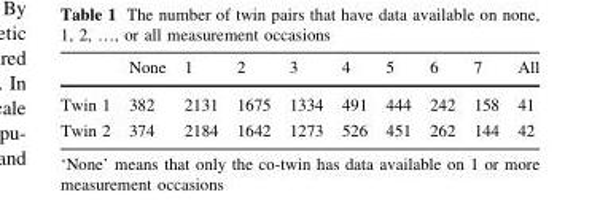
<table><thead><tr><td></td><td>None</td><td>1</td><td>2</td><td>3</td><td>4</td><td>5</td><td>6</td><td>7</td><td>All</td></tr></thead><tbody><tr><td>Twin 1</td><td>382</td><td>2131</td><td>1675</td><td>1334</td><td>491</td><td>444</td><td>242</td><td>158</td><td>41</td></tr><tr><td>Twin 2</td><td>374</td><td>2184</td><td>1642</td><td>1273</td><td>526</td><td>451</td><td>262</td><td>144</td><td>42</td></tr></tbody></table>